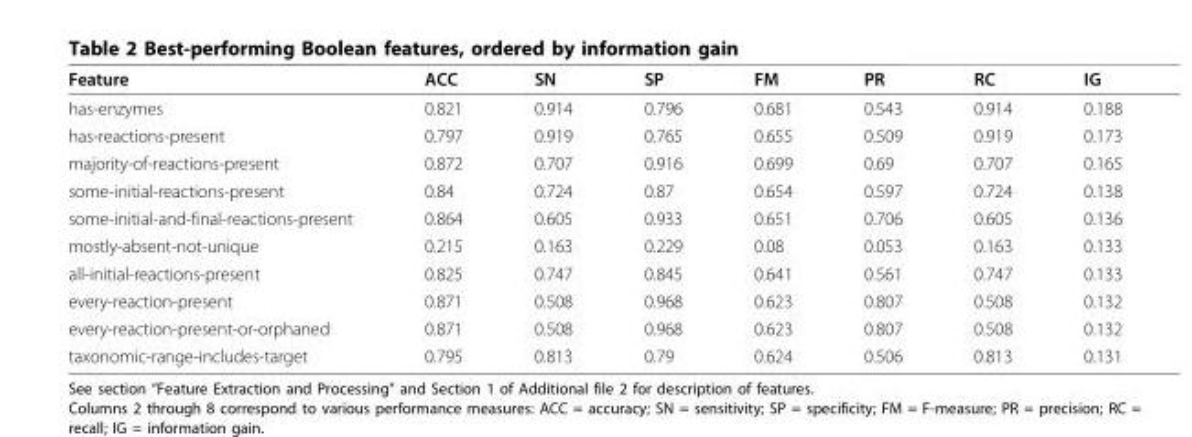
<table><thead><tr><td>Feature</td><td>ACC</td><td>SN</td><td>SP</td><td>FM</td><td>PR</td><td>RC</td><td>IG</td></tr></thead><tbody><tr><td>has-enzymes</td><td>0.821</td><td>0.914</td><td>0.796</td><td>0.681</td><td>0.543</td><td>0.914</td><td>0.188</td></tr><tr><td>has-reactions-present</td><td>0.797</td><td>0.919</td><td>0.765</td><td>0.655</td><td>0.509</td><td>0.919</td><td>0.173</td></tr><tr><td>majority-of-reactions-present</td><td>0.872</td><td>0.707</td><td>0.916</td><td>0.699</td><td>0.69</td><td>0.707</td><td>0.165</td></tr><tr><td>some-initial-reactions-present</td><td>0.84</td><td>0.724</td><td>0.87</td><td>0.654</td><td>0.597</td><td>0.724</td><td>0.138</td></tr><tr><td>some-initial-and-final-reactions-present</td><td>0.864</td><td>0.605</td><td>0.933</td><td>0.651</td><td>0.706</td><td>0.605</td><td>0.136</td></tr><tr><td>mostly-absent-not-unique</td><td>0.215</td><td>0.163</td><td>0.229</td><td>0.08</td><td>0.053</td><td>0.163</td><td>0.133</td></tr><tr><td>all-initial-reactions-present</td><td>0.825</td><td>0.747</td><td>0.845</td><td>0.641</td><td>0.561</td><td>0.747</td><td>0.133</td></tr><tr><td>every-reaction-present</td><td>0.871</td><td>0.508</td><td>0.968</td><td>0.623</td><td>0.807</td><td>0.508</td><td>0.132</td></tr><tr><td>every-reaction-present-or-orphaned</td><td>0.871</td><td>0.508</td><td>0.968</td><td>0.623</td><td>0.807</td><td>0.508</td><td>0.132</td></tr><tr><td>taxonomic-range-includes-target</td><td>0.795</td><td>0.813</td><td>0.79</td><td>0.624</td><td>0.506</td><td>0.813</td><td>0.131</td></tr></tbody></table>